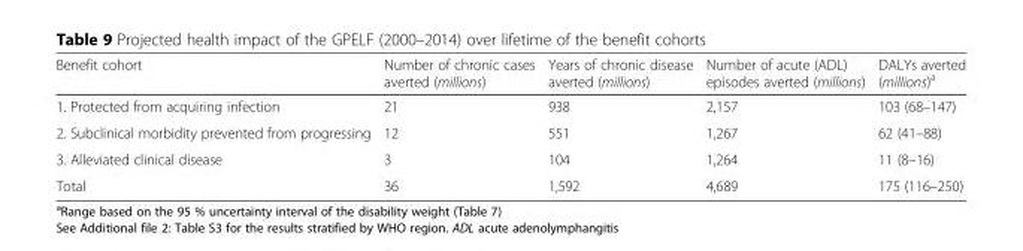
<table><thead><tr><td>Benefit cohort</td><td>Number of chronic cases averted (millions)</td><td>Years of chronic disease averted (millions)</td><td>Number of acute (ADL) episodes averted (millions)</td><td>DALYs averted (millions)<sup>a</sup></td></tr></thead><tbody><tr><td>1. Protected from acquiring infection</td><td>21</td><td>938</td><td>2,157</td><td>103 (68–147)</td></tr><tr><td>2. Subclinical morbidity prevented from progressing</td><td>12</td><td>551</td><td>1,267</td><td>62 (41–88)</td></tr><tr><td>3. Alleviated clinical disease</td><td>3</td><td>104</td><td>1,264</td><td>11 (8–16)</td></tr><tr><td>Total</td><td>36</td><td>1,592</td><td>4,689</td><td>175 (116–250)</td></tr></tbody></table>